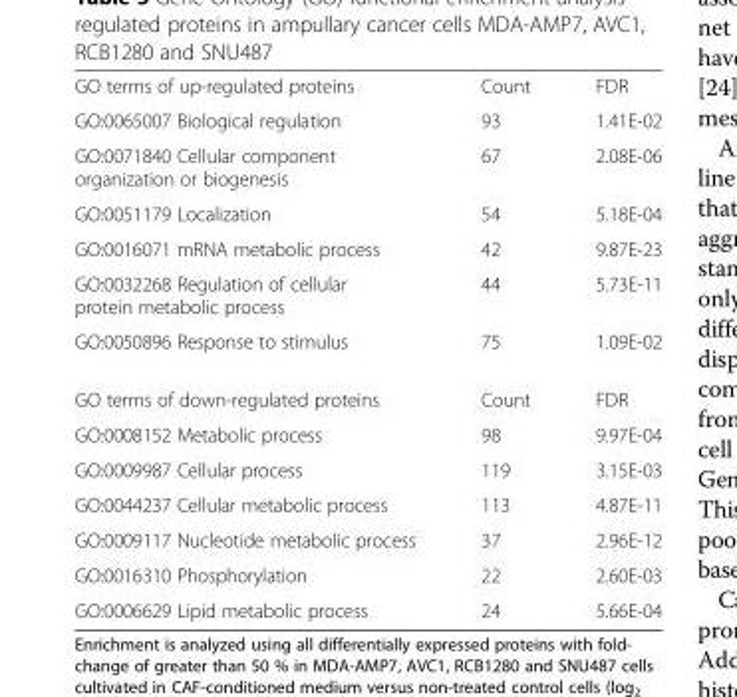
<table><tbody><tr><td>GO terms of up-regulated proteins</td><td>Count</td><td>FDR</td></tr><tr><td>GO:0065007 Biological regulation</td><td>93</td><td>1.41E-02</td></tr><tr><td>GO:0071840 Cellular component organization or biogenesis</td><td>67</td><td>2.08E-06</td></tr><tr><td>GO:0051179 Localization</td><td>54</td><td>5.18E-04</td></tr><tr><td>GO:0016071 mRNA metabolic process</td><td>42</td><td>9.87E-23</td></tr><tr><td>GO:0032268 Regulation of cellular protein metabolic process</td><td>44</td><td>5.73E-11</td></tr><tr><td>GO:0050896 Response to stimulus</td><td>75</td><td>1.09E-02</td></tr><tr><td>GO terms of down-regulated proteins</td><td>Count</td><td>FDR</td></tr><tr><td>GO:0008152 Metabolic process</td><td>98</td><td>9.97E-04</td></tr><tr><td>GO:0009987 Cellular process</td><td>119</td><td>3.15E-03</td></tr><tr><td>GO:0044237 Cellular metabolic process</td><td>113</td><td>4.87E-11</td></tr><tr><td>GO:0009117 Nucleotide metabolic process</td><td>37</td><td>2.96E-12</td></tr><tr><td>GO:0016310 Phosphorylation</td><td>22</td><td>2.60E-03</td></tr><tr><td>GO:0006629 Lipid metabolic process</td><td>24</td><td>5.66E-04</td></tr></tbody></table>